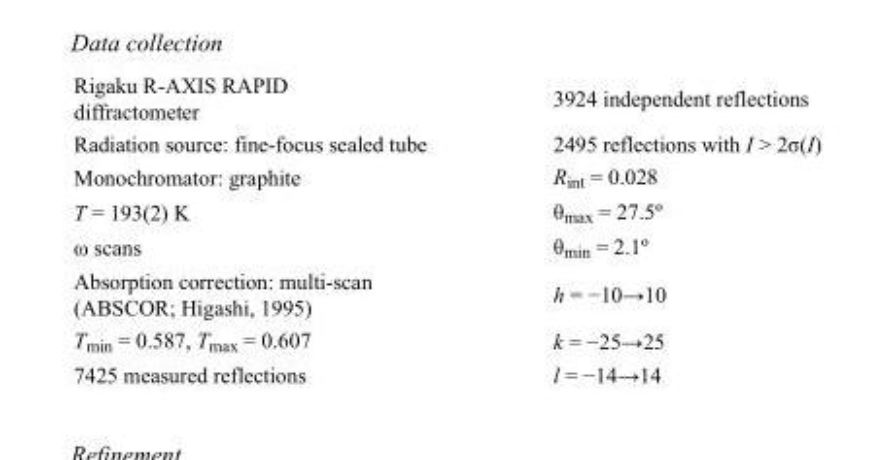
<table><tbody><tr><td>Rigaku R-AXIS RAPID diffractometer</td><td>3924 independent reflections</td></tr><tr><td>Radiation source: fine-focus sealed tube</td><td>2495 reflections with I &gt; 2σ(I)</td></tr><tr><td>Monochromator: graphite</td><td>R<sub>int</sub> = 0.028</td></tr><tr><td>T = 193(2) K</td><td>θ<sub>max</sub> = 27.5º</td></tr><tr><td>ω scans</td><td>θ<sub>min</sub> = 2.1º</td></tr><tr><td>Absorption correction: multi-scan (ABSCOR; Higashi, 1995)</td><td>h = −10→10</td></tr><tr><td>T<sub>min</sub> = 0.587, T<sub>max</sub> = 0.607</td><td>k = −25→25</td></tr><tr><td>7425 measured reflections</td><td>l = −14→14</td></tr></tbody></table>